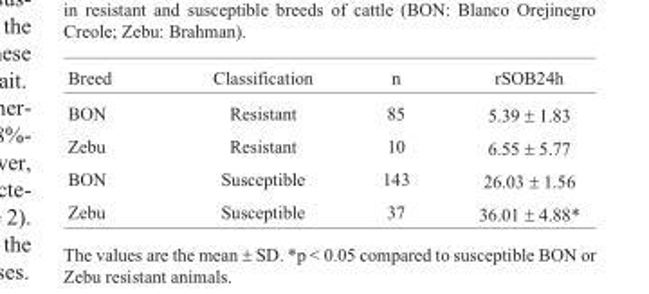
<table><thead><tr><td>Breed</td><td>Classification</td><td>n</td><td>rSOB24h</td></tr></thead><tbody><tr><td>BON</td><td>Resistant</td><td>85</td><td>5.39 ± 1.83</td></tr><tr><td>Zebu</td><td>Resistant</td><td>10</td><td>6.55 ± 5.77</td></tr><tr><td>BON</td><td>Susceptible</td><td>143</td><td>26.03 ± 1.56</td></tr><tr><td>Zebu</td><td>Susceptible</td><td>37</td><td>36.01 ± 4.88*</td></tr></tbody></table>